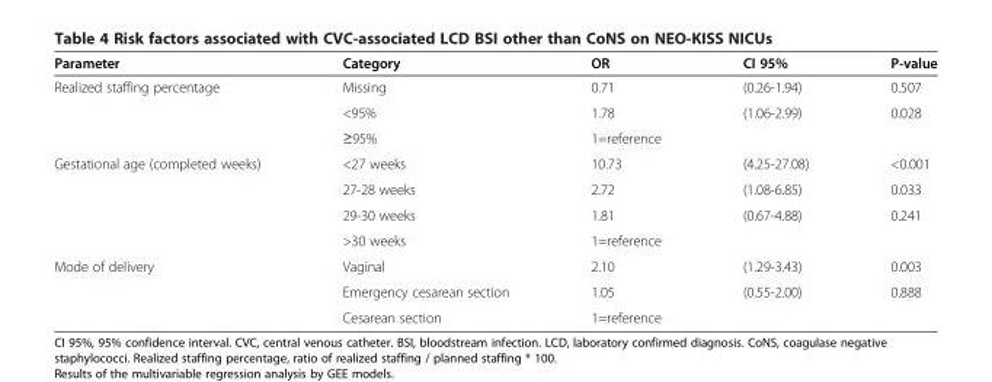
<table><thead><tr><td>Parameter</td><td>Category</td><td>OR</td><td>CI 95%</td><td>P-value</td></tr></thead><tbody><tr><td rowspan="3">Realized staffing percentage</td><td>Missing</td><td>0.71</td><td>(0.26-1.94)</td><td>0.507</td></tr><tr><td>&lt;95%</td><td>1.78</td><td>(1.06-2.99)</td><td>0.028</td></tr><tr><td>≥95%</td><td>1=reference</td><td></td><td></td></tr><tr><td rowspan="4">Gestational age (completed weeks)</td><td>&lt;27 weeks</td><td>10.73</td><td>(4.25-27.08)</td><td>&lt;0.001</td></tr><tr><td>27-28 weeks</td><td>2.72</td><td>(1.08-6.85)</td><td>0.033</td></tr><tr><td>29-30 weeks</td><td>1.81</td><td>(0.67-4.88)</td><td>0.241</td></tr><tr><td>&gt;30 weeks</td><td>1=reference</td><td></td><td></td></tr><tr><td rowspan="3">Mode of delivery</td><td>Vaginal</td><td>2.10</td><td>(1.29-3.43)</td><td>0.003</td></tr><tr><td>Emergency cesarean section</td><td>1.05</td><td>(0.55-2.00)</td><td>0.888</td></tr><tr><td>Cesarean section</td><td>1=reference</td><td></td><td></td></tr></tbody></table>